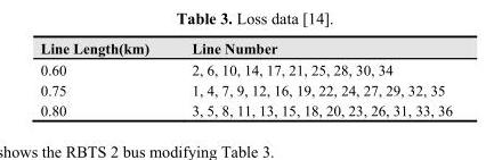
<table><thead><tr><td>Line Length(km)</td><td>Line Number</td></tr></thead><tbody><tr><td>0.60</td><td>2, 6, 10, 14, 17, 21, 25, 28, 30, 34</td></tr><tr><td>0.75</td><td>1, 4, 7, 9, 12, 16, 19, 22, 24, 27, 29, 32, 35</td></tr><tr><td>0.80</td><td>3, 5, 8, 11, 13, 15, 18, 20, 23, 26, 31, 33, 36</td></tr></tbody></table>